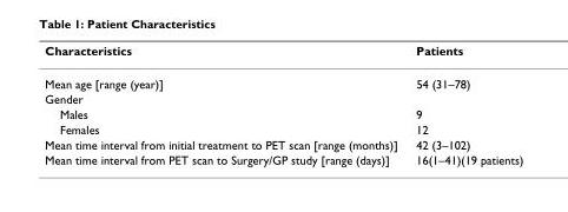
<table><thead><tr><td>Characteristics</td><td>Patients</td></tr></thead><tbody><tr><td>Mean age [range (year)]</td><td>54 (31–78)</td></tr><tr><td colspan="2">Gender</td></tr><tr><td>Males</td><td>9</td></tr><tr><td>Females</td><td>12</td></tr><tr><td>Mean time interval from initial treatment to PET scan [range (months)]</td><td>42 (3–102)</td></tr><tr><td>Mean time interval from PET scan to Surgery/GP study [range (days)]</td><td>16(1–41)(19 patients)</td></tr></tbody></table>